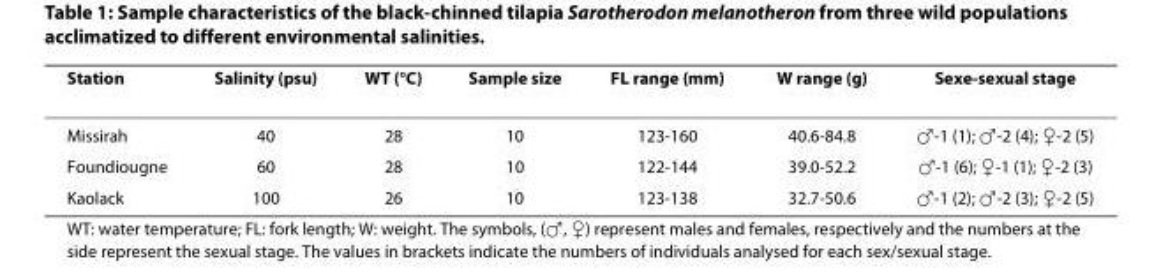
<table><thead><tr><td>Station</td><td>Salinity (psu)</td><td>WT (°C)</td><td>Sample size</td><td>FL range (mm)</td><td>W range (g)</td><td>Sexe-sexual stage</td></tr></thead><tbody><tr><td>Missirah</td><td>40</td><td>28</td><td>10</td><td>123-160</td><td>40.6-84.8</td><td>♂-1 (1); ♂-2 (4); ♀-2 (5)</td></tr><tr><td>Foundiougne</td><td>60</td><td>28</td><td>10</td><td>122-144</td><td>39.0-52.2</td><td>♂-1 (6); ♀-1 (1); ♀-2 (3)</td></tr><tr><td>Kaolack</td><td>100</td><td>26</td><td>10</td><td>123-138</td><td>32.7-50.6</td><td>♂-1 (2); ♂-2 (3); ♀-2 (5)</td></tr></tbody></table>